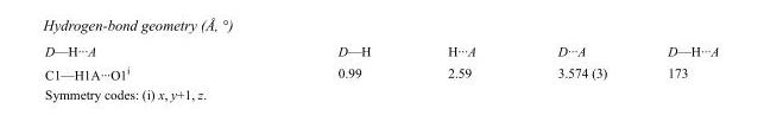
<table><tbody><tr><td>D—H···A</td><td>D—H</td><td>H···A</td><td>D···A</td><td>D—H···A</td></tr><tr><td>C1—H1A···O1<sup>i</sup></td><td>0.99</td><td>2.59</td><td>3.574 (3)</td><td>173</td></tr></tbody></table>